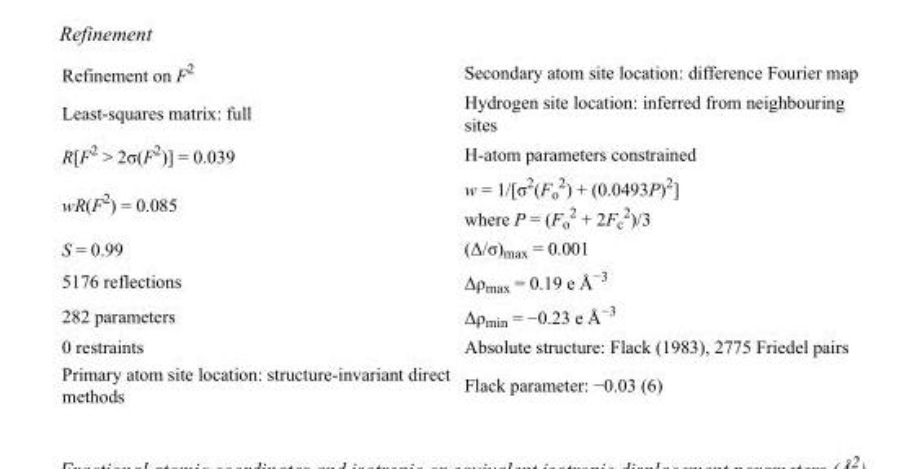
<table><tbody><tr><td>Refinement on F<sup>2</sup></td><td>Secondary atom site location: difference Fourier map</td></tr><tr><td>Least-squares matrix: full</td><td>Hydrogen site location: inferred from neighbouring sites</td></tr><tr><td>R[F<sup>2</sup> &gt; 2σ(F<sup>2</sup>)] = 0.039</td><td>H-atom parameters constrained</td></tr><tr><td>wR(F<sup>2</sup>) = 0.085</td><td>w = 1/[σ<sup>2</sup>(F<sub>o</sub> <sup>2</sup>) + (0.0493P)<sup>2</sup>] where P = (F<sub>o</sub> <sup>2</sup> + 2F<sub>c</sub> <sup>2</sup>)/3</td></tr><tr><td>S = 0.99</td><td>(Δ/σ)<sub>max</sub> = 0.001</td></tr><tr><td>5176 reflections</td><td>Δρ<sub>max</sub> = 0.19 e Å<sup>−3</sup></td></tr><tr><td>282 parameters</td><td>Δρ<sub>min</sub> = −0.23 e Å<sup>−3</sup></td></tr><tr><td>0 restraints</td><td>Absolute structure: Flack (1983), 2775 Friedel pairs</td></tr><tr><td>Primary atom site location: structure-invariant direct methods</td><td>Flack parameter: −0.03 (6)</td></tr></tbody></table>